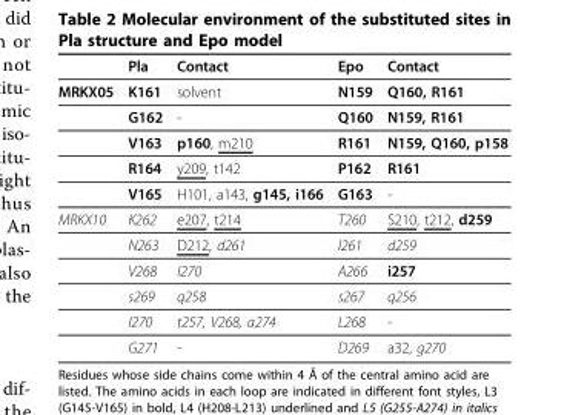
<table><thead><tr><td></td><td>Pla</td><td>Contact</td><td>Epo</td><td>Contact</td></tr></thead><tbody><tr><td rowspan="5">MRKX05</td><td>K161</td><td>solvent</td><td>N159</td><td>Q160, R161</td></tr><tr><td>G162</td><td>-</td><td>Q160</td><td>N159, R161</td></tr><tr><td>V163</td><td>p160, m210</td><td>R161</td><td>N159, Q160, p158</td></tr><tr><td>R164</td><td>y209, t142</td><td>P162</td><td>R161</td></tr><tr><td>V165</td><td>H101, a143, g145, i166</td><td>G163</td><td>-</td></tr><tr><td rowspan="6">MRKX10</td><td>K262</td><td>e207, t214</td><td>T260</td><td>S210, t212, d259</td></tr><tr><td>N263</td><td>D212, d261</td><td>I261</td><td>d259</td></tr><tr><td>V268</td><td>I270</td><td>A266</td><td>i257</td></tr><tr><td>s269</td><td>q258</td><td>s267</td><td>q256</td></tr><tr><td>I270</td><td>t257, V268, a274</td><td>L268</td><td>-</td></tr><tr><td>G271</td><td>-</td><td>D269</td><td>a32, g270</td></tr></tbody></table>